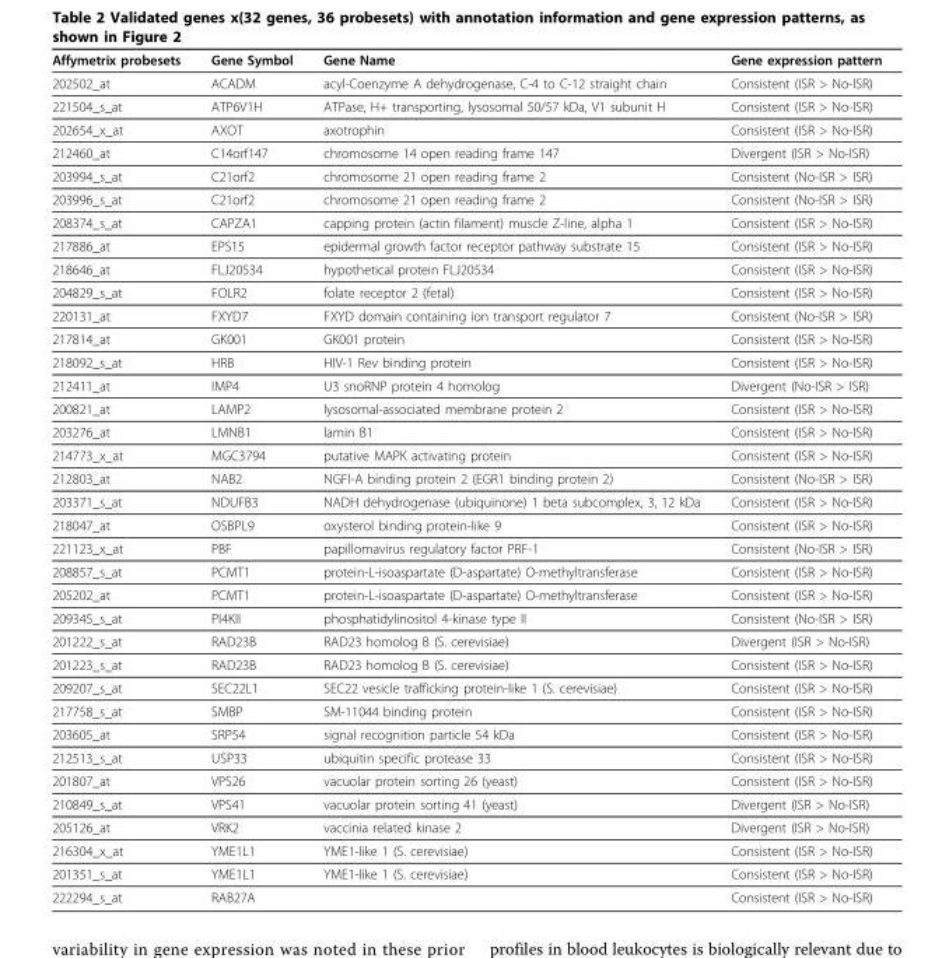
<table><thead><tr><td>Affymetrix probesets</td><td>Gene Symbol</td><td>Gene Name</td><td>Gene expression pattern</td></tr></thead><tbody><tr><td>202502_at</td><td>ACADM</td><td>acyl-Coenzyme A dehydrogenase, C-4 to C-12 straight chain</td><td>Consistent (ISR &gt; No-ISR)</td></tr><tr><td>221504_s_at</td><td>ATP6V1H</td><td>ATPase, H+ transporting, lysosomal 50/57 kDa, V1 subunit H</td><td>Consistent (ISR &gt; No-ISR)</td></tr><tr><td>202654_x_at</td><td>AXOT</td><td>axotrophin</td><td>Consistent (ISR &gt; No-ISR)</td></tr><tr><td>212460_at</td><td>C14orf147</td><td>chromosome 14 open reading frame 147</td><td>Divergent (ISR &gt; No-ISR)</td></tr><tr><td>203994_s_at</td><td>C21orf2</td><td>chromosome 21 open reading frame 2</td><td>Consistent (No-ISR &gt; ISR)</td></tr><tr><td>203996_s_at</td><td>C21orf2</td><td>chromosome 21 open reading frame 2</td><td>Consistent (No-ISR &gt; ISR)</td></tr><tr><td>208374_s_at</td><td>CAPZA1</td><td>capping protein (actin filament) muscle Z-line, alpha 1</td><td>Consistent (ISR &gt; No-ISR)</td></tr><tr><td>217886_at</td><td>EPS15</td><td>epidermal growth factor receptor pathway substrate 15</td><td>Consistent (ISR &gt; No-ISR)</td></tr><tr><td>218646_at</td><td>FLJ20534</td><td>hypothetical protein FLJ20534</td><td>Consistent (ISR &gt; No-ISR)</td></tr><tr><td>204829_s_at</td><td>FOLR2</td><td>folate receptor 2 (fetal)</td><td>Consistent (ISR &gt; No-ISR)</td></tr><tr><td>220131_at</td><td>FXYD7</td><td>FXYD domain containing ion transport regulator 7</td><td>Consistent (No-ISR &gt; ISR)</td></tr><tr><td>217814_at</td><td>GK001</td><td>GK001 protein</td><td>Consistent (ISR &gt; No-ISR)</td></tr><tr><td>218092_s_at</td><td>HRB</td><td>HIV-1 Rev binding protein</td><td>Consistent (ISR &gt; No-ISR)</td></tr><tr><td>212411_at</td><td>IMP4</td><td>U3 snoRNP protein 4 homolog</td><td>Divergent (No-ISR &gt; ISR)</td></tr><tr><td>200821_at</td><td>LAMP2</td><td>lysosomal-associated membrane protein 2</td><td>Consistent (ISR &gt; No-ISR)</td></tr><tr><td>203276_at</td><td>LMNB1</td><td>lamin B1</td><td>Consistent (ISR &gt; No-ISR)</td></tr><tr><td>214773_x_at</td><td>MGC3794</td><td>putative MAPK activating protein</td><td>Consistent (ISR &gt; No-ISR)</td></tr><tr><td>212803_at</td><td>NAB2</td><td>NGFI-A binding protein 2 (EGR1 binding protein 2)</td><td>Consistent (No-ISR &gt; ISR)</td></tr><tr><td>203371_s_at</td><td>NDUFB3</td><td>NADH dehydrogenase (ubiquinone) 1 beta subcomplex, 3, 12 kDa</td><td>Consistent (ISR &gt; No-ISR)</td></tr><tr><td>218047_at</td><td>OSBPL9</td><td>oxysterol binding protein-like 9</td><td>Consistent (ISR &gt; No-ISR)</td></tr><tr><td>221123_x_at</td><td>PBF</td><td>papillomavirus regulatory factor PRF-1</td><td>Consistent (No-ISR &gt; ISR)</td></tr><tr><td>208857_s_at</td><td>PCMT1</td><td>protein-L-isoaspartate (D-aspartate) O-methyltransferase</td><td>Consistent (ISR &gt; No-ISR)</td></tr><tr><td>205202_at</td><td>PCMT1</td><td>protein-L-isoaspartate (D-aspartate) O-methyltransferase</td><td>Consistent (ISR &gt; No-ISR)</td></tr><tr><td>209345_s_at</td><td>PI4KII</td><td>phosphatidylinositol 4-kinase type II</td><td>Consistent (No-ISR &gt; ISR)</td></tr><tr><td>201222_s_at</td><td>RAD23B</td><td>RAD23 homolog B (S. cerevisiae)</td><td>Divergent (ISR &gt; No-ISR)</td></tr><tr><td>201223_s_at</td><td>RAD23B</td><td>RAD23 homolog B (S. cerevisiae)</td><td>Consistent (ISR &gt; No-ISR)</td></tr><tr><td>209207_s_at</td><td>SEC22L1</td><td>SEC22 vesicle trafficking protein-like 1 (S. cerevisiae)</td><td>Consistent (ISR &gt; No-ISR)</td></tr><tr><td>217758_s_at</td><td>SMBP</td><td>SM-11044 binding protein</td><td>Consistent (ISR &gt; No-ISR)</td></tr><tr><td>203605_at</td><td>SRP54</td><td>signal recognition particle 54 kDa</td><td>Consistent (ISR &gt; No-ISR)</td></tr><tr><td>212513_s_at</td><td>USP33</td><td>ubiquitin specific protease 33</td><td>Consistent (ISR &gt; No-ISR)</td></tr><tr><td>201807_at</td><td>VPS26</td><td>vacuolar protein sorting 26 (yeast)</td><td>Consistent (ISR &gt; No-ISR)</td></tr><tr><td>210849_s_at</td><td>VPS41</td><td>vacuolar protein sorting 41 (yeast)</td><td>Divergent (ISR &gt; No-ISR)</td></tr><tr><td>205126_at</td><td>VRK2</td><td>vaccinia related kinase 2</td><td>Divergent (ISR &gt; No-ISR)</td></tr><tr><td>216304_x_at</td><td>YME1L1</td><td>YME1-like 1 (S. cerevisiae)</td><td>Consistent (ISR &gt; No-ISR)</td></tr><tr><td>201351_s_at</td><td>YME1L1</td><td>YME1-like 1 (S. cerevisiae)</td><td>Consistent (ISR &gt; No-ISR)</td></tr><tr><td>222294_s_at</td><td>RAB27A</td><td></td><td>Consistent (ISR &gt; No-ISR)</td></tr></tbody></table>